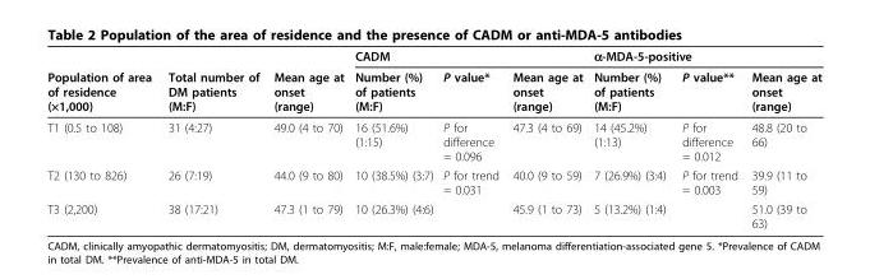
<table><thead><tr><td rowspan="2">Population of area of residence (×1,000)</td><td rowspan="2">Total number of DM patients (M:F)</td><td rowspan="2">Mean age at onset (range)</td><td colspan="3">CADM</td><td colspan="3">α-MDA-5-positive</td></tr><tr><td>Number (%) of patients (M:F)</td><td>P value*</td><td>Mean age at onset (range)</td><td>Number (%) of patients (M:F)</td><td>P value**</td><td>Mean age at onset (range)</td></tr></thead><tbody><tr><td>T1 (0.5 to 108)</td><td>31 (4:27)</td><td>49.0 (4 to 70)</td><td>16 (51.6%) (1:15)</td><td>P for difference = 0.096</td><td>47.3 (4 to 69)</td><td>14 (45.2%) (1:13)</td><td>P for difference = 0.012</td><td>48.8 (20 to 66)</td></tr><tr><td>T2 (130 to 826)</td><td>26 (7:19)</td><td>44.0 (9 to 80)</td><td>10 (38.5%) (3:7)</td><td>P for trend = 0.031</td><td>40.0 (9 to 59)</td><td>7 (26.9%) (3:4)</td><td>P for trend = 0.003</td><td>39.9 (11 to 59)</td></tr><tr><td>T3 (2,200)</td><td>38 (17:21)</td><td>47.3 (1 to 79)</td><td>10 (26.3%) (4:6)</td><td></td><td>45.9 (1 to 73)</td><td>5 (13.2%) (1:4)</td><td></td><td>51.0 (39 to 63)</td></tr></tbody></table>